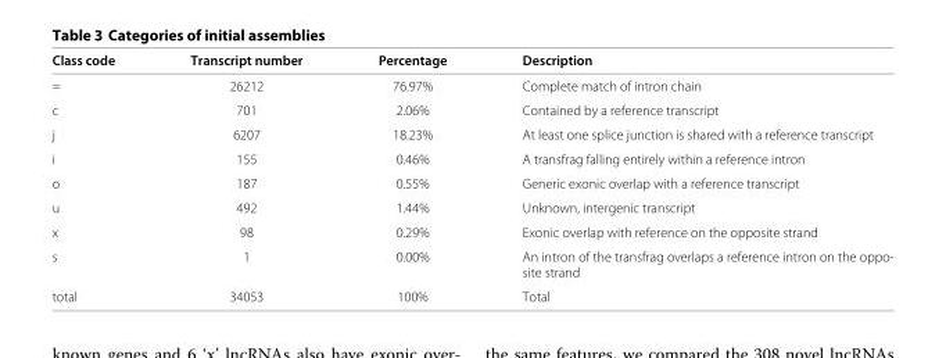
<table><thead><tr><td>Class code</td><td>Transcript number</td><td>Percentage</td><td>Description</td></tr></thead><tbody><tr><td>=</td><td>26212</td><td>76.97%</td><td>Complete match of intron chain</td></tr><tr><td>c</td><td>701</td><td>2.06%</td><td>Contained by a reference transcript</td></tr><tr><td>j</td><td>6207</td><td>18.23%</td><td>At least one splice junction is shared with a reference transcript</td></tr><tr><td>i</td><td>155</td><td>0.46%</td><td>A transfrag falling entirely within a reference intron</td></tr><tr><td>o</td><td>187</td><td>0.55%</td><td>Generic exonic overlap with a reference transcript</td></tr><tr><td>u</td><td>492</td><td>1.44%</td><td>Unknown, intergenic transcript</td></tr><tr><td>x</td><td>98</td><td>0.29%</td><td>Exonic overlap with reference on the opposite strand</td></tr><tr><td>s</td><td>1</td><td>0.00%</td><td>An intron of the transfrag overlaps a reference intron on the oppo- site strand</td></tr><tr><td>total</td><td>34053</td><td>100%</td><td>Total</td></tr></tbody></table>